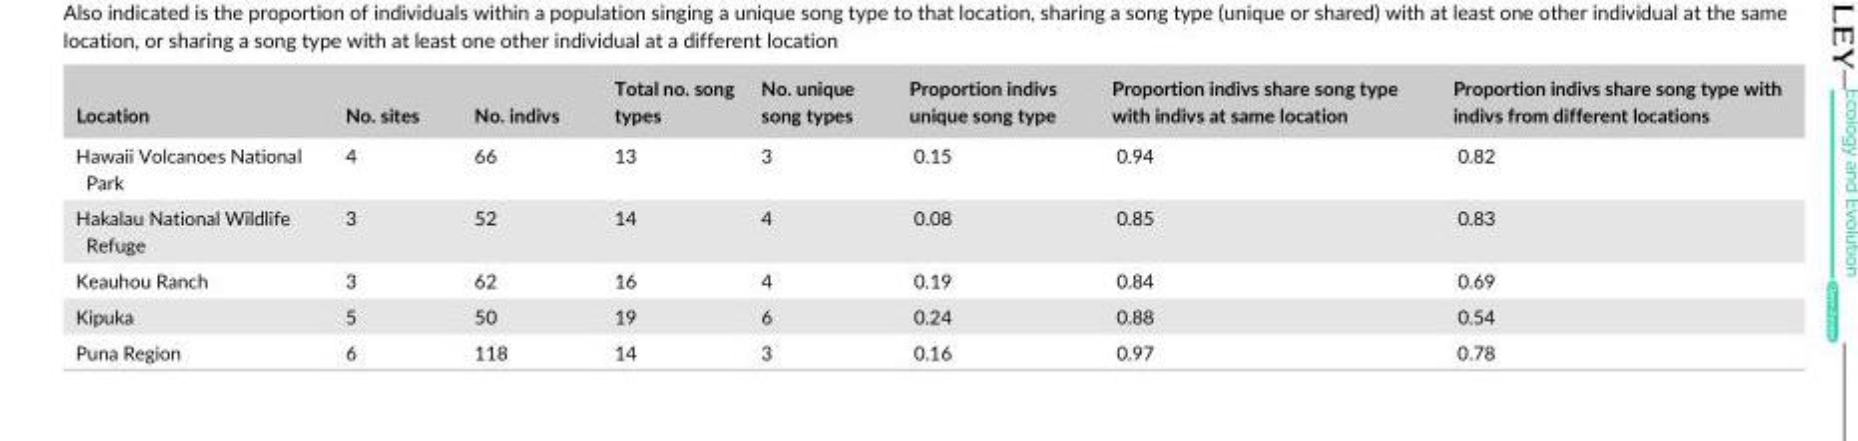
<table><thead><tr><td>Location</td><td>No. sites</td><td>No. indivs</td><td>Total no. song types</td><td>No. unique song types</td><td>Proportion indivs unique song type</td><td>Proportion indivs share song type with indivs at same location</td><td>Proportion indivs share song type with indivs from different locations</td></tr></thead><tbody><tr><td>Hawaii Volcanoes National Park</td><td>4</td><td>66</td><td>13</td><td>3</td><td>0.15</td><td>0.94</td><td>0.82</td></tr><tr><td>Hakalau National Wildlife Refuge</td><td>3</td><td>52</td><td>14</td><td>4</td><td>0.08</td><td>0.85</td><td>0.83</td></tr><tr><td>Keauhou Ranch</td><td>3</td><td>62</td><td>16</td><td>4</td><td>0.19</td><td>0.84</td><td>0.69</td></tr><tr><td>Kipuka</td><td>5</td><td>50</td><td>19</td><td>6</td><td>0.24</td><td>0.88</td><td>0.54</td></tr><tr><td>Puna Region</td><td>6</td><td>118</td><td>14</td><td>3</td><td>0.16</td><td>0.97</td><td>0.78</td></tr></tbody></table>